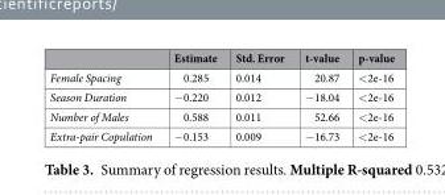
<table><thead><tr><td></td><td>Estimate</td><td>Std. Error</td><td>t-value</td><td>p-value</td></tr></thead><tbody><tr><td>Female Spacing</td><td>0.285</td><td>0.014</td><td>20.87</td><td>&lt;2e-16</td></tr><tr><td>Season Duration</td><td>−0.220</td><td>0.012</td><td>−18.04</td><td>&lt;2e-16</td></tr><tr><td>Number of Males</td><td>0.588</td><td>0.011</td><td>52.66</td><td>&lt;2e-16</td></tr><tr><td>Extra-pair Copulation</td><td>−0.153</td><td>0.009</td><td>−16.73</td><td>&lt;2e-16</td></tr></tbody></table>